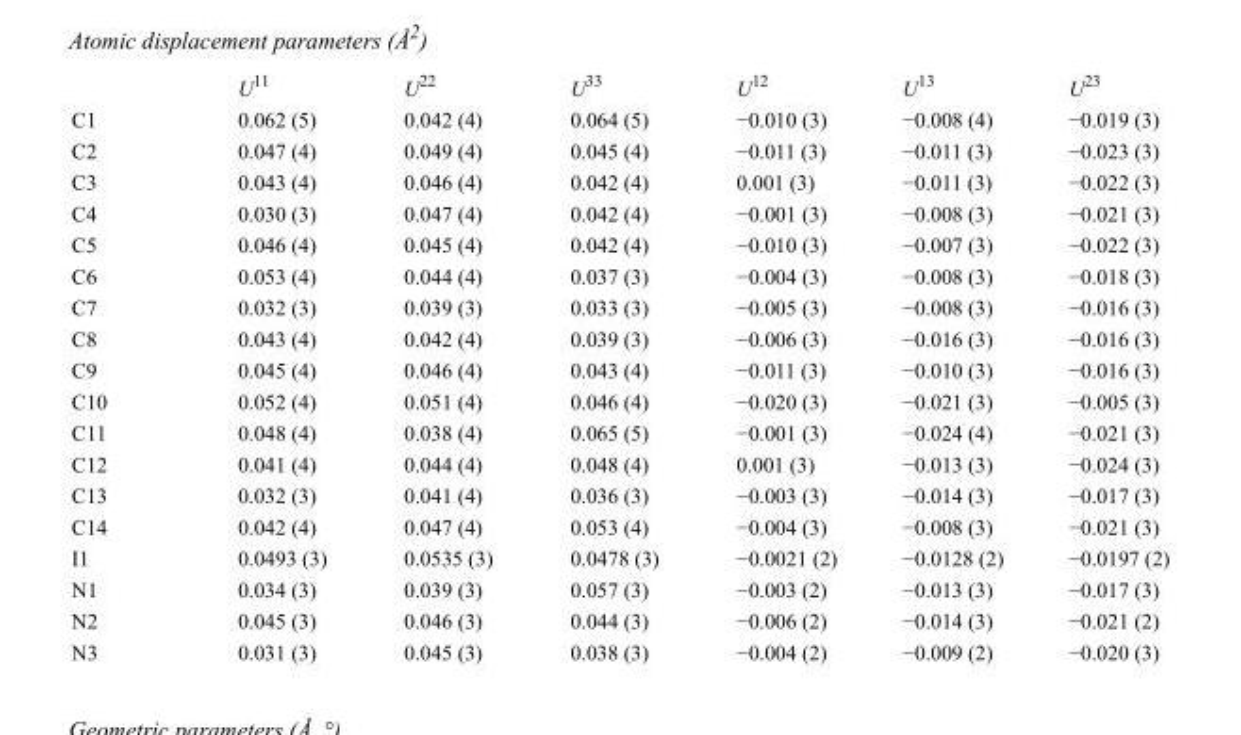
<table><thead><tr><td></td><td>U<sup>11</sup></td><td>U<sup>22</sup></td><td>U<sup>33</sup></td><td>U<sup>12</sup></td><td>U<sup>13</sup></td><td>U<sup>23</sup></td></tr></thead><tbody><tr><td>C1</td><td>0.062 (5)</td><td>0.042 (4)</td><td>0.064 (5)</td><td>−0.010 (3)</td><td>−0.008 (4)</td><td>−0.019 (3)</td></tr><tr><td>C2</td><td>0.047 (4)</td><td>0.049 (4)</td><td>0.045 (4)</td><td>−0.011 (3)</td><td>−0.011 (3)</td><td>−0.023 (3)</td></tr><tr><td>C3</td><td>0.043 (4)</td><td>0.046 (4)</td><td>0.042 (4)</td><td>0.001 (3)</td><td>−0.011 (3)</td><td>−0.022 (3)</td></tr><tr><td>C4</td><td>0.030 (3)</td><td>0.047 (4)</td><td>0.042 (4)</td><td>−0.001 (3)</td><td>−0.008 (3)</td><td>−0.021 (3)</td></tr><tr><td>C5</td><td>0.046 (4)</td><td>0.045 (4)</td><td>0.042 (4)</td><td>−0.010 (3)</td><td>−0.007 (3)</td><td>−0.022 (3)</td></tr><tr><td>C6</td><td>0.053 (4)</td><td>0.044 (4)</td><td>0.037 (3)</td><td>−0.004 (3)</td><td>−0.008 (3)</td><td>−0.018 (3)</td></tr><tr><td>C7</td><td>0.032 (3)</td><td>0.039 (3)</td><td>0.033 (3)</td><td>−0.005 (3)</td><td>−0.008 (3)</td><td>−0.016 (3)</td></tr><tr><td>C8</td><td>0.043 (4)</td><td>0.042 (4)</td><td>0.039 (3)</td><td>−0.006 (3)</td><td>−0.016 (3)</td><td>−0.016 (3)</td></tr><tr><td>C9</td><td>0.045 (4)</td><td>0.046 (4)</td><td>0.043 (4)</td><td>−0.011 (3)</td><td>−0.010 (3)</td><td>−0.016 (3)</td></tr><tr><td>C10</td><td>0.052 (4)</td><td>0.051 (4)</td><td>0.046 (4)</td><td>−0.020 (3)</td><td>−0.021 (3)</td><td>−0.005 (3)</td></tr><tr><td>C11</td><td>0.048 (4)</td><td>0.038 (4)</td><td>0.065 (5)</td><td>−0.001 (3)</td><td>−0.024 (4)</td><td>−0.021 (3)</td></tr><tr><td>C12</td><td>0.041 (4)</td><td>0.044 (4)</td><td>0.048 (4)</td><td>0.001 (3)</td><td>−0.013 (3)</td><td>−0.024 (3)</td></tr><tr><td>C13</td><td>0.032 (3)</td><td>0.041 (4)</td><td>0.036 (3)</td><td>−0.003 (3)</td><td>−0.014 (3)</td><td>−0.017 (3)</td></tr><tr><td>C14</td><td>0.042 (4)</td><td>0.047 (4)</td><td>0.053 (4)</td><td>−0.004 (3)</td><td>−0.008 (3)</td><td>−0.021 (3)</td></tr><tr><td>I1</td><td>0.0493 (3)</td><td>0.0535 (3)</td><td>0.0478 (3)</td><td>−0.0021 (2)</td><td>−0.0128 (2)</td><td>−0.0197 (2)</td></tr><tr><td>N1</td><td>0.034 (3)</td><td>0.039 (3)</td><td>0.057 (3)</td><td>−0.003 (2)</td><td>−0.013 (3)</td><td>−0.017 (3)</td></tr><tr><td>N2</td><td>0.045 (3)</td><td>0.046 (3)</td><td>0.044 (3)</td><td>−0.006 (2)</td><td>−0.014 (3)</td><td>−0.021 (2)</td></tr><tr><td>N3</td><td>0.031 (3)</td><td>0.045 (3)</td><td>0.038 (3)</td><td>−0.004 (2)</td><td>−0.009 (2)</td><td>−0.020 (3)</td></tr></tbody></table>